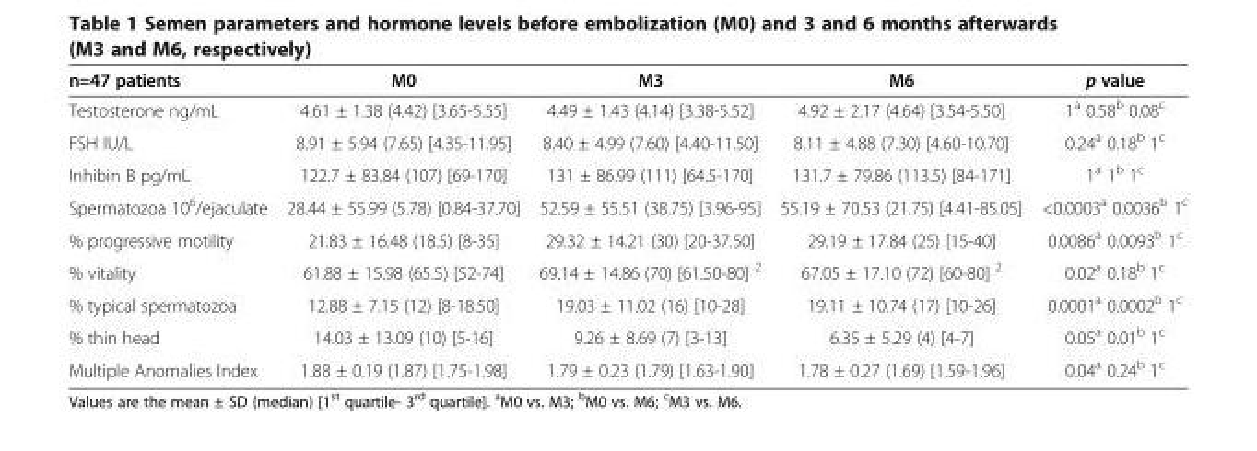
<table><thead><tr><td>n=47 patients</td><td>M0</td><td>M3</td><td>M6</td><td>p value</td></tr></thead><tbody><tr><td>Testosterone ng/mL</td><td>4.61 ± 1.38 (4.42) [3.65-5.55]</td><td>4.49 ± 1.43 (4.14) [3.38-5.52]</td><td>4.92 ± 2.17 (4.64) [3.54-5.50]</td><td>1<sup>a</sup> 0.58<sup>b</sup> 0.08<sup>c</sup></td></tr><tr><td>FSH IU/L</td><td>8.91 ± 5.94 (7.65) [4.35-11.95]</td><td>8.40 ± 4.99 (7.60) [4.40-11.50]</td><td>8.11 ± 4.88 (7.30) [4.60-10.70]</td><td>0.24<sup>a</sup> 0.18<sup>b</sup> 1<sup>c</sup></td></tr><tr><td>Inhibin B pg/mL</td><td>122.7 ± 83.84 (107) [69-170]</td><td>131 ± 86.99 (111) [64.5-170]</td><td>131.7 ± 79.86 (113.5) [84-171]</td><td>1<sup>a</sup> 1<sup>b</sup> 1<sup>c</sup></td></tr><tr><td>Spermatozoa 10<sup>6</sup>/ejaculate</td><td>28.44 ± 55.99 (5.78) [0.84-37.70]</td><td>52.59 ± 55.51 (38.75) [3.96-95]</td><td>55.19 ± 70.53 (21.75) [4.41-85.05]</td><td>&lt;0.0003<sup>a</sup> 0.0036<sup>b</sup> 1<sup>c</sup></td></tr><tr><td>% progressive motility</td><td>21.83 ± 16.48 (18.5) [8-35]</td><td>29.32 ± 14.21 (30) [20-37.50]</td><td>29.19 ± 17.84 (25) [15-40]</td><td>0.0086<sup>a</sup> 0.0093<sup>b</sup> 1<sup>c</sup></td></tr><tr><td>% vitality</td><td>61.88 ± 15.98 (65.5) [52-74]</td><td>69.14 ± 14.86 (70) [61.50-80] <sup>2</sup></td><td>67.05 ± 17.10 (72) [60-80] <sup>2</sup></td><td>0.02<sup>a</sup> 0.18<sup>b</sup> 1<sup>c</sup></td></tr><tr><td>% typical spermatozoa</td><td>12.88 ± 7.15 (12) [8-18.50]</td><td>19.03 ± 11.02 (16) [10-28]</td><td>19.11 ± 10.74 (17) [10-26]</td><td>0.0001<sup>a</sup> 0.0002<sup>b</sup> 1<sup>c</sup></td></tr><tr><td>% thin head</td><td>14.03 ± 13.09 (10) [5-16]</td><td>9.26 ± 8.69 (7) [3-13]</td><td>6.35 ± 5.29 (4) [4-7]</td><td>0.05<sup>a</sup> 0.01<sup>b</sup> 1<sup>c</sup></td></tr><tr><td>Multiple Anomalies Index</td><td>1.88 ± 0.19 (1.87) [1.75-1.98]</td><td>1.79 ± 0.23 (1.79) [1.63-1.90]</td><td>1.78 ± 0.27 (1.69) [1.59-1.96]</td><td>0.04<sup>a</sup> 0.24<sup>b</sup> 1<sup>c</sup></td></tr></tbody></table>